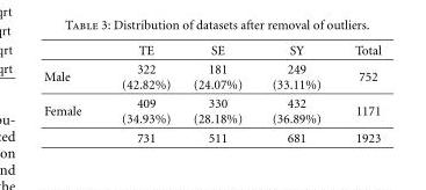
<table><thead><tr><td></td><td>TE</td><td>SE</td><td>SY</td><td>Total</td></tr></thead><tbody><tr><td>Male</td><td>322 (42.82%)</td><td>181 (24.07%)</td><td>249 (33.11%)</td><td>752</td></tr><tr><td rowspan="2">Female</td><td>409 (34.93%)</td><td>330 (28.18%)</td><td>432 (36.89%)</td><td>1171</td></tr><tr><td>731</td><td>511</td><td>681</td><td>1923</td></tr></tbody></table>